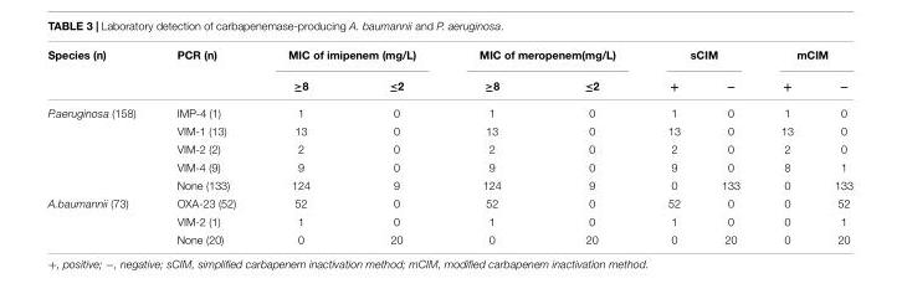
<table><thead><tr><td rowspan="2">Species (n)</td><td rowspan="2">PCR (n)</td><td colspan="2">MIC of imipenem (mg/L)</td><td colspan="2">MIC of meropenem(mg/L)</td><td colspan="2">sCIM</td><td colspan="2">mCIM</td></tr><tr><td>≥8</td><td>≤2</td><td>≥8</td><td>≤2</td><td>+</td><td>−</td><td>+</td><td>−</td></tr></thead><tbody><tr><td rowspan="5">P.aeruginosa (158)</td><td>IMP-4 (1)</td><td>1</td><td>0</td><td>1</td><td>0</td><td>1</td><td>0</td><td>1</td><td>0</td></tr><tr><td>VIM-1 (13)</td><td>13</td><td>0</td><td>13</td><td>0</td><td>13</td><td>0</td><td>13</td><td>0</td></tr><tr><td>VIM-2 (2)</td><td>2</td><td>0</td><td>2</td><td>0</td><td>2</td><td>0</td><td>2</td><td>0</td></tr><tr><td>VIM-4 (9)</td><td>9</td><td>0</td><td>9</td><td>0</td><td>9</td><td>0</td><td>8</td><td>1</td></tr><tr><td>None (133)</td><td>124</td><td>9</td><td>124</td><td>9</td><td>0</td><td>133</td><td>0</td><td>133</td></tr><tr><td rowspan="3">A.baumannii (73)</td><td>OXA-23 (52)</td><td>52</td><td>0</td><td>52</td><td>0</td><td>52</td><td>0</td><td>0</td><td>52</td></tr><tr><td>VIM-2 (1)</td><td>1</td><td>0</td><td>1</td><td>0</td><td>1</td><td>0</td><td>0</td><td>1</td></tr><tr><td>None (20)</td><td>0</td><td>20</td><td>0</td><td>20</td><td>0</td><td>20</td><td>0</td><td>20</td></tr></tbody></table>